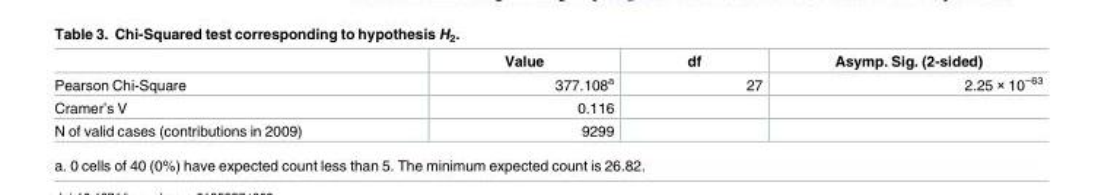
<table><thead><tr><td></td><td>Value</td><td>df</td><td>Asymp. Sig. (2-sided)</td></tr></thead><tbody><tr><td>Pearson Chi-Square</td><td>377.108<sup>a</sup></td><td>27</td><td>2.25 × 10<sup>−63</sup></td></tr><tr><td>Cramer’s V</td><td>0.116</td><td></td><td></td></tr><tr><td>N of valid cases (contributions in 2009)</td><td>9299</td><td></td><td></td></tr></tbody></table>